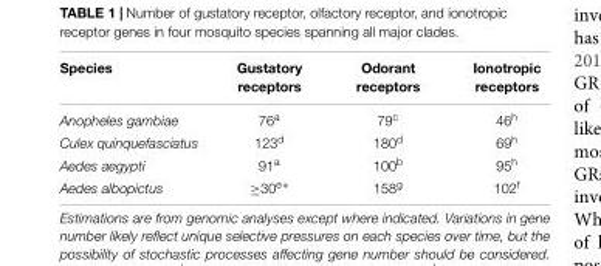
<table><thead><tr><td>Species</td><td>Gustatory receptors</td><td>Odorant receptors</td><td>Ionotropic receptors</td></tr></thead><tbody><tr><td>Anopheles gambiae</td><td>76<sup>a</sup></td><td>79<sup>c</sup></td><td>46<sup>h</sup></td></tr><tr><td>Culex quinquefasciatus</td><td>123<sup>d</sup></td><td>180<sup>d</sup></td><td>69<sup>h</sup></td></tr><tr><td>Aedes aegypti</td><td>91<sup>a</sup></td><td>100<sup>b</sup></td><td>95<sup>h</sup></td></tr><tr><td>Aedes albopictus</td><td>≥30<sup>e∗</sup></td><td>158<sup>g</sup></td><td>102<sup>f</sup></td></tr></tbody></table>